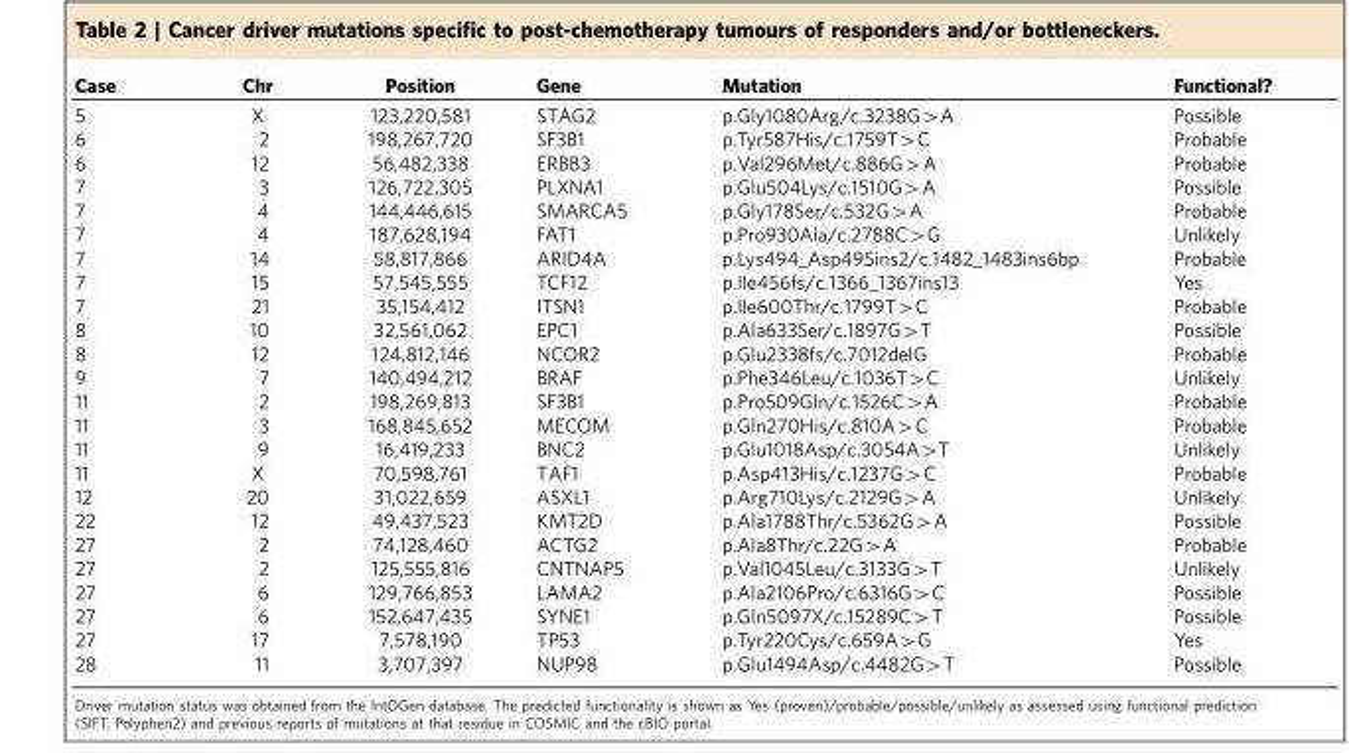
<table><thead><tr><td>Case</td><td>Chr</td><td>Position</td><td>Gene</td><td>Mutation</td><td>Functional?</td></tr></thead><tbody><tr><td>5</td><td>X</td><td>123,220,581</td><td>STAG2</td><td>p.Gly1080Arg/c.3238G&gt;A</td><td>Possible</td></tr><tr><td>6</td><td>2</td><td>198,267,720</td><td>SF3B1</td><td>p.Tyr587His/c.1759T&gt;C</td><td>Probable</td></tr><tr><td>6</td><td>12</td><td>56,482,338</td><td>ERBB3</td><td>p.Val296Met/c.886G&gt;A</td><td>Probable</td></tr><tr><td>7</td><td>3</td><td>126,722,305</td><td>PLXNA1</td><td>p.Glu504Lys/c.1510G&gt;A</td><td>Possible</td></tr><tr><td>7</td><td>4</td><td>144,446,615</td><td>SMARCA5</td><td>p.Gly178Ser/c.532G&gt;A</td><td>Probable</td></tr><tr><td>7</td><td>4</td><td>187,628,194</td><td>FAT1</td><td>p.Pro930Ala/c.2788C&gt;G</td><td>Unlikely</td></tr><tr><td>7</td><td>14</td><td>58,817,866</td><td>ARID4A</td><td>p.Lys494_Asp495ins2/c.1482_1483ins6bp</td><td>Probable</td></tr><tr><td>7</td><td>15</td><td>57,545,555</td><td>TCF12</td><td>p.Ile456fs/c.1366_1367ins13</td><td>Yes</td></tr><tr><td>7</td><td>21</td><td>35,154,412</td><td>ITSN1</td><td>p.Ile600Thr/c.1799T&gt;C</td><td>Probable</td></tr><tr><td>8</td><td>10</td><td>32,561,062</td><td>EPC1</td><td>p.Ala633Ser/c.1897G&gt;T</td><td>Possible</td></tr><tr><td>8</td><td>12</td><td>124,812,146</td><td>NCOR2</td><td>p.Glu2338fs/c.7012delG</td><td>Probable</td></tr><tr><td>9</td><td>7</td><td>140,494,212</td><td>BRAF</td><td>p.Phe346Leu/c.1036T&gt;C</td><td>Unlikely</td></tr><tr><td>11</td><td>2</td><td>198,269,813</td><td>SF3B1</td><td>p.Pro509Gln/c.1526C&gt;A</td><td>Probable</td></tr><tr><td>11</td><td>3</td><td>168,845,652</td><td>MECOM</td><td>p.Gln270His/c.810A&gt;C</td><td>Probable</td></tr><tr><td>11</td><td>9</td><td>16,419,233</td><td>BNC2</td><td>p.Glu1018Asp/c.3054A&gt;T</td><td>Unlikely</td></tr><tr><td>11</td><td>X</td><td>70,598,761</td><td>TAF1</td><td>p.Asp413His/c.1237G&gt;C</td><td>Probable</td></tr><tr><td>12</td><td>20</td><td>31,022,659</td><td>ASXL1</td><td>p.Arg710Lys/c.2129G&gt;A</td><td>Unlikely</td></tr><tr><td>22</td><td>12</td><td>49,437,523</td><td>KMT2D</td><td>p.Ala1788Thr/c.5362G&gt;A</td><td>Possible</td></tr><tr><td>27</td><td>2</td><td>74,128,460</td><td>ACTG2</td><td>p.Ala8Thr/c.22G&gt;A</td><td>Probable</td></tr><tr><td>27</td><td>2</td><td>125,555,816</td><td>CNTNAP5</td><td>p.Val1045Leu/c.3133G&gt;T</td><td>Unlikely</td></tr><tr><td>27</td><td>6</td><td>129,766,853</td><td>LAMA2</td><td>p.Ala2106Pro/c.6316G&gt;C</td><td>Possible</td></tr><tr><td>27</td><td>6</td><td>152,647,435</td><td>SYNE1</td><td>p.Gln5097X/c.15289C&gt;T</td><td>Possible</td></tr><tr><td>27</td><td>17</td><td>7,578,190</td><td>TP53</td><td>p.Tyr220Cys/c.659A&gt;G</td><td>Yes</td></tr><tr><td>28</td><td>11</td><td>3,707,397</td><td>NUP98</td><td>p.Glu1494Asp/c.4482G&gt;T</td><td>Possible</td></tr></tbody></table>